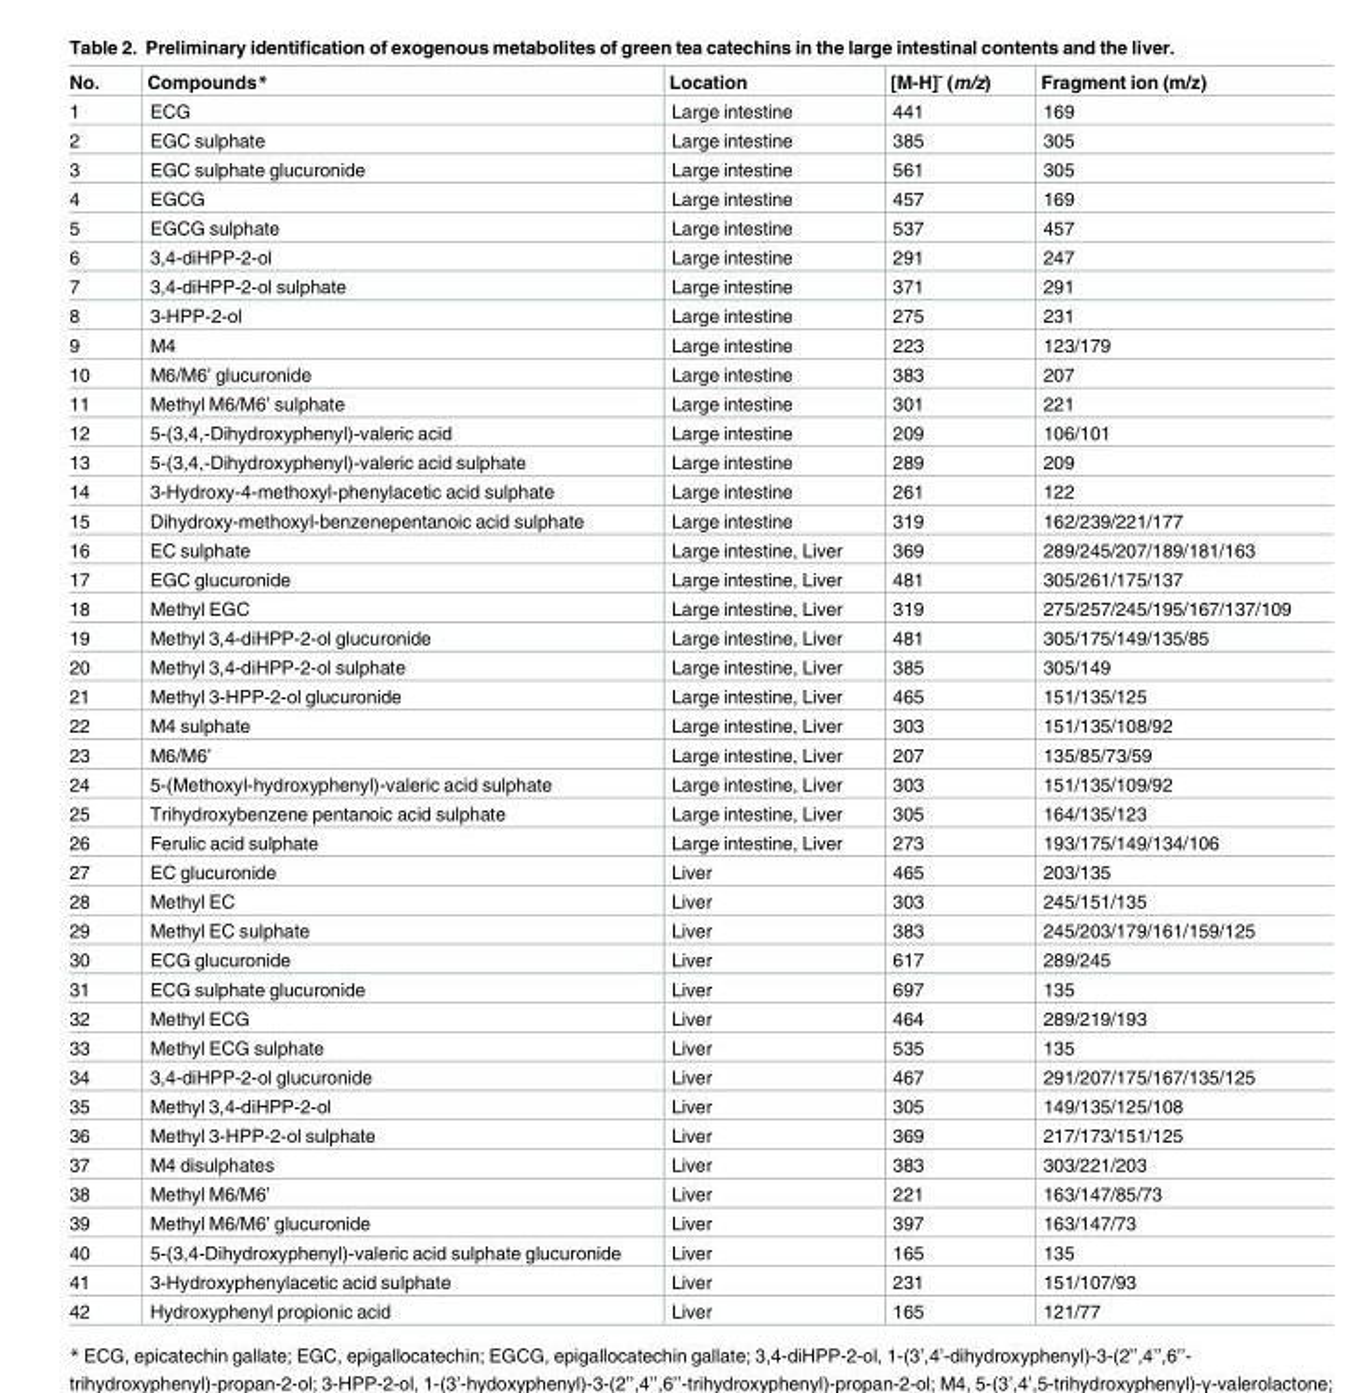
<table><thead><tr><td>No.</td><td>Compounds*</td><td>Location</td><td>[M-H]<sup>-</sup> (m/z)</td><td>Fragment ion (m/z)</td></tr></thead><tbody><tr><td>1</td><td>ECG</td><td>Large intestine</td><td>441</td><td>169</td></tr><tr><td>2</td><td>EGC sulphate</td><td>Large intestine</td><td>385</td><td>305</td></tr><tr><td>3</td><td>EGC sulphate glucuronide</td><td>Large intestine</td><td>561</td><td>305</td></tr><tr><td>4</td><td>EGCG</td><td>Large intestine</td><td>457</td><td>169</td></tr><tr><td>5</td><td>EGCG sulphate</td><td>Large intestine</td><td>537</td><td>457</td></tr><tr><td>6</td><td>3,4-diHPP-2-ol</td><td>Large intestine</td><td>291</td><td>247</td></tr><tr><td>7</td><td>3,4-diHPP-2-ol sulphate</td><td>Large intestine</td><td>371</td><td>291</td></tr><tr><td>8</td><td>3-HPP-2-ol</td><td>Large intestine</td><td>275</td><td>231</td></tr><tr><td>9</td><td>M4</td><td>Large intestine</td><td>223</td><td>123/179</td></tr><tr><td>10</td><td>M6/M6’ glucuronide</td><td>Large intestine</td><td>383</td><td>207</td></tr><tr><td>11</td><td>Methyl M6/M6’ sulphate</td><td>Large intestine</td><td>301</td><td>221</td></tr><tr><td>12</td><td>5-(3,4,-Dihydroxyphenyl)-valeric acid</td><td>Large intestine</td><td>209</td><td>106/101</td></tr><tr><td>13</td><td>5-(3,4,-Dihydroxyphenyl)-valeric acid sulphate</td><td>Large intestine</td><td>289</td><td>209</td></tr><tr><td>14</td><td>3-Hydroxy-4-methoxyl-phenylacetic acid sulphate</td><td>Large intestine</td><td>261</td><td>122</td></tr><tr><td>15</td><td>Dihydroxy-methoxyl-benzenepentanoic acid sulphate</td><td>Large intestine</td><td>319</td><td>162/239/221/177</td></tr><tr><td>16</td><td>EC sulphate</td><td>Large intestine, Liver</td><td>369</td><td>289/245/207/189/181/163</td></tr><tr><td>17</td><td>EGC glucuronide</td><td>Large intestine, Liver</td><td>481</td><td>305/261/175/137</td></tr><tr><td>18</td><td>Methyl EGC</td><td>Large intestine, Liver</td><td>319</td><td>275/257/245/195/167/137/109</td></tr><tr><td>19</td><td>Methyl 3,4-diHPP-2-ol glucuronide</td><td>Large intestine, Liver</td><td>481</td><td>305/175/149/135/85</td></tr><tr><td>20</td><td>Methyl 3,4-diHPP-2-ol sulphate</td><td>Large intestine, Liver</td><td>385</td><td>305/149</td></tr><tr><td>21</td><td>Methyl 3-HPP-2-ol glucuronide</td><td>Large intestine, Liver</td><td>465</td><td>151/135/125</td></tr><tr><td>22</td><td>M4 sulphate</td><td>Large intestine, Liver</td><td>303</td><td>151/135/108/92</td></tr><tr><td>23</td><td>M6/M6’</td><td>Large intestine, Liver</td><td>207</td><td>135/85/73/59</td></tr><tr><td>24</td><td>5-(Methoxyl-hydroxyphenyl)-valeric acid sulphate</td><td>Large intestine, Liver</td><td>303</td><td>151/135/109/92</td></tr><tr><td>25</td><td>Trihydroxybenzene pentanoic acid sulphate</td><td>Large intestine, Liver</td><td>305</td><td>164/135/123</td></tr><tr><td>26</td><td>Ferulic acid sulphate</td><td>Large intestine, Liver</td><td>273</td><td>193/175/149/134/106</td></tr><tr><td>27</td><td>EC glucuronide</td><td>Liver</td><td>465</td><td>203/135</td></tr><tr><td>28</td><td>Methyl EC</td><td>Liver</td><td>303</td><td>245/151/135</td></tr><tr><td>29</td><td>Methyl EC sulphate</td><td>Liver</td><td>383</td><td>245/203/179/161/159/125</td></tr><tr><td>30</td><td>ECG glucuronide</td><td>Liver</td><td>617</td><td>289/245</td></tr><tr><td>31</td><td>ECG sulphate glucuronide</td><td>Liver</td><td>697</td><td>135</td></tr><tr><td>32</td><td>Methyl ECG</td><td>Liver</td><td>464</td><td>289/219/193</td></tr><tr><td>33</td><td>Methyl ECG sulphate</td><td>Liver</td><td>535</td><td>135</td></tr><tr><td>34</td><td>3,4-diHPP-2-ol glucuronide</td><td>Liver</td><td>467</td><td>291/207/175/167/135/125</td></tr><tr><td>35</td><td>Methyl 3,4-diHPP-2-ol</td><td>Liver</td><td>305</td><td>149/135/125/108</td></tr><tr><td>36</td><td>Methyl 3-HPP-2-ol sulphate</td><td>Liver</td><td>369</td><td>217/173/151/125</td></tr><tr><td>37</td><td>M4 disulphates</td><td>Liver</td><td>383</td><td>303/221/203</td></tr><tr><td>38</td><td>Methyl M6/M6’</td><td>Liver</td><td>221</td><td>163/147/85/73</td></tr><tr><td>39</td><td>Methyl M6/M6’ glucuronide</td><td>Liver</td><td>397</td><td>163/147/73</td></tr><tr><td>40</td><td>5-(3,4-Dihydroxyphenyl)-valeric acid sulphate glucuronide</td><td>Liver</td><td>165</td><td>135</td></tr><tr><td>41</td><td>3-Hydroxyphenylacetic acid sulphate</td><td>Liver</td><td>231</td><td>151/107/93</td></tr><tr><td>42</td><td>Hydroxyphenyl propionic acid</td><td>Liver</td><td>165</td><td>121/77</td></tr></tbody></table>